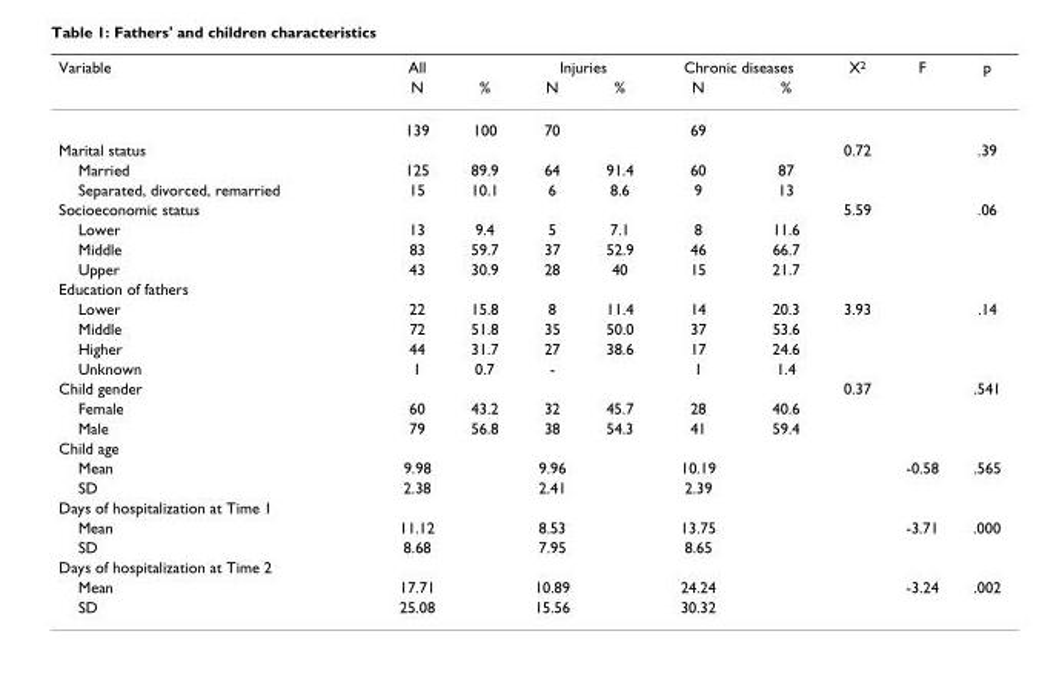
<table><thead><tr><td rowspan="2">Variable</td><td rowspan="2">All N</td><td rowspan="2">%</td><td colspan="2">Injuries</td><td colspan="2">Chronic diseases</td><td rowspan="2">X<sup>2</sup></td><td rowspan="2">F</td><td rowspan="2">p</td></tr><tr><td>N</td><td>%</td><td>N</td><td>%</td></tr></thead><tbody><tr><td></td><td>139</td><td>100</td><td>70</td><td></td><td>69</td><td></td><td></td><td></td><td></td></tr><tr><td>Marital status</td><td></td><td></td><td></td><td></td><td></td><td></td><td>0.72</td><td></td><td>.39</td></tr><tr><td>Married</td><td>125</td><td>89.9</td><td>64</td><td>91.4</td><td>60</td><td>87</td><td></td><td></td><td></td></tr><tr><td>Separated, divorced, remarried</td><td>15</td><td>10.1</td><td>6</td><td>8.6</td><td>9</td><td>13</td><td></td><td></td><td></td></tr><tr><td>Socioeconomic status</td><td></td><td></td><td></td><td></td><td></td><td></td><td>5.59</td><td></td><td>.06</td></tr><tr><td>Lower</td><td>13</td><td>9.4</td><td>5</td><td>7.1</td><td>8</td><td>11.6</td><td></td><td></td><td></td></tr><tr><td>Middle</td><td>83</td><td>59.7</td><td>37</td><td>52.9</td><td>46</td><td>66.7</td><td></td><td></td><td></td></tr><tr><td>Upper</td><td>43</td><td>30.9</td><td>28</td><td>40</td><td>15</td><td>21.7</td><td></td><td></td><td></td></tr><tr><td colspan="10">Education of fathers</td></tr><tr><td>Lower</td><td>22</td><td>15.8</td><td>8</td><td>11.4</td><td>14</td><td>20.3</td><td>3.93</td><td></td><td>.14</td></tr><tr><td>Middle</td><td>72</td><td>51.8</td><td>35</td><td>50.0</td><td>37</td><td>53.6</td><td></td><td></td><td></td></tr><tr><td>Higher</td><td>44</td><td>31.7</td><td>27</td><td>38.6</td><td>17</td><td>24.6</td><td></td><td></td><td></td></tr><tr><td>Unknown</td><td>1</td><td>0.7</td><td>-</td><td></td><td>1</td><td>1.4</td><td></td><td></td><td></td></tr><tr><td>Child gender</td><td></td><td></td><td></td><td></td><td></td><td></td><td>0.37</td><td></td><td>.541</td></tr><tr><td>Female</td><td>60</td><td>43.2</td><td>32</td><td>45.7</td><td>28</td><td>40.6</td><td></td><td></td><td></td></tr><tr><td>Male</td><td>79</td><td>56.8</td><td>38</td><td>54.3</td><td>41</td><td>59.4</td><td></td><td></td><td></td></tr><tr><td colspan="10">Child age</td></tr><tr><td>Mean</td><td>9.98</td><td></td><td>9.96</td><td></td><td>10.19</td><td></td><td></td><td>-0.58</td><td>.565</td></tr><tr><td>SD</td><td>2.38</td><td></td><td>2.41</td><td></td><td>2.39</td><td></td><td></td><td></td><td></td></tr><tr><td colspan="10">Days of hospitalization at Time 1</td></tr><tr><td>Mean</td><td>11.12</td><td></td><td>8.53</td><td></td><td>13.75</td><td></td><td></td><td>-3.71</td><td>.000</td></tr><tr><td>SD</td><td>8.68</td><td></td><td>7.95</td><td></td><td>8.65</td><td></td><td></td><td></td><td></td></tr><tr><td colspan="10">Days of hospitalization at Time 2</td></tr><tr><td>Mean</td><td>17.71</td><td></td><td>10.89</td><td></td><td>24.24</td><td></td><td></td><td>-3.24</td><td>.002</td></tr><tr><td>SD</td><td>25.08</td><td></td><td>15.56</td><td></td><td>30.32</td><td></td><td></td><td></td><td></td></tr></tbody></table>